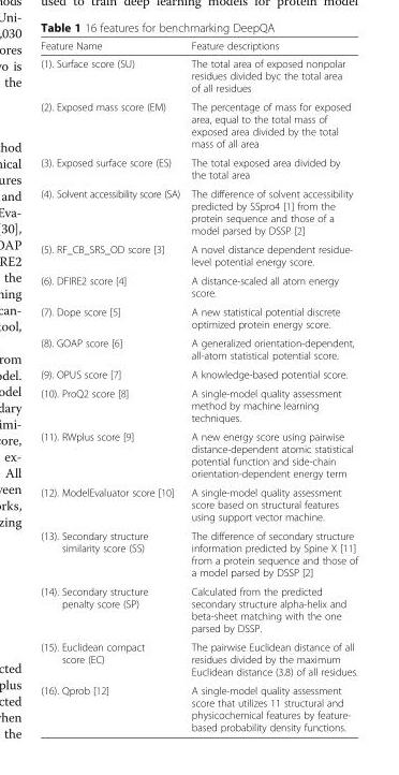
<table><thead><tr><td>Feature Name</td><td>Feature descriptions</td></tr></thead><tbody><tr><td>(1). Surface score (SU)</td><td>The total area of exposed nonpolar residues divided byc the total area of all residues</td></tr><tr><td>(2). Exposed mass score (EM)</td><td>The percentage of mass for exposed area, equal to the total mass of exposed area divided by the total mass of all area</td></tr><tr><td>(3). Exposed surface score (ES)</td><td>The total exposed area divided by the total area</td></tr><tr><td>(4). Solvent accessibility score (SA)</td><td>The difference of solvent accessibility predicted by SSpro4 [1] from the protein sequence and those of a model parsed by DSSP [2]</td></tr><tr><td>(5). RF_CB_SRS_OD score [3]</td><td>A novel distance dependent residue- level potential energy score.</td></tr><tr><td>(6). DFIRE2 score [4]</td><td>A distance-scaled all atom energy score.</td></tr><tr><td>(7). Dope score [5]</td><td>A new statistical potential discrete optimized protein energy score.</td></tr><tr><td>(8). GOAP score [6]</td><td>A generalized orientation-dependent, all-atom statistical potential score.</td></tr><tr><td>(9). OPUS score [7]</td><td>A knowledge-based potential score.</td></tr><tr><td>(10). ProQ2 score [8]</td><td>A single-model quality assessment method by machine learning techniques.</td></tr><tr><td>(11). RWplus score [9]</td><td>A new energy score using pairwise distance-dependent atomic statistical potential function and side-chain orientation-dependent energy term</td></tr><tr><td>(12). ModelEvaluator score [10]</td><td>A single-model quality assessment score based on structural features using support vector machine.</td></tr><tr><td>(13). Secondary structure similarity score (SS)</td><td>The difference of secondary structure information predicted by Spine X [11] from a protein sequence and those of a model parsed by DSSP [2]</td></tr><tr><td>(14). Secondary structure penalty score (SP)</td><td>Calculated from the predicted secondary structure alpha-helix and beta-sheet matching with the one parsed by DSSP.</td></tr><tr><td>(15). Euclidean compact score (EC)</td><td>The pairwise Euclidean distance of all residues divided by the maximum Euclidean distance (3.8) of all residues.</td></tr><tr><td>(16). Qprob [12]</td><td>A single-model quality assessment score that utilizes 11 structural and physicochemical features by feature- based probability density functions.</td></tr></tbody></table>